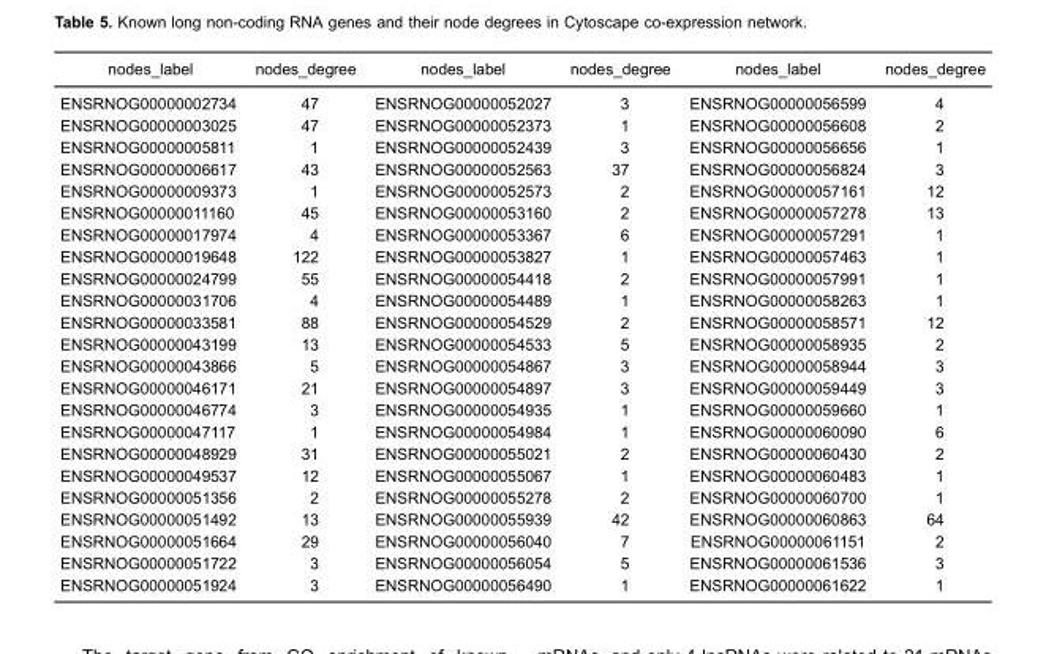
<table><thead><tr><td>nodes_label</td><td>nodes_degree</td><td>nodes_label</td><td>nodes_degree</td><td>nodes_label</td><td>nodes_degree</td></tr></thead><tbody><tr><td>ENSRNOG00000002734</td><td>47</td><td>ENSRNOG00000052027</td><td>3</td><td>ENSRNOG00000056599</td><td>4</td></tr><tr><td>ENSRNOG00000003025</td><td>47</td><td>ENSRNOG00000052373</td><td>1</td><td>ENSRNOG00000056608</td><td>2</td></tr><tr><td>ENSRNOG00000005811</td><td>1</td><td>ENSRNOG00000052439</td><td>3</td><td>ENSRNOG00000056656</td><td>1</td></tr><tr><td>ENSRNOG00000006617</td><td>43</td><td>ENSRNOG00000052563</td><td>37</td><td>ENSRNOG00000056824</td><td>3</td></tr><tr><td>ENSRNOG00000009373</td><td>1</td><td>ENSRNOG00000052573</td><td>2</td><td>ENSRNOG00000057161</td><td>12</td></tr><tr><td>ENSRNOG00000011160</td><td>45</td><td>ENSRNOG00000053160</td><td>2</td><td>ENSRNOG00000057278</td><td>13</td></tr><tr><td>ENSRNOG00000017974</td><td>4</td><td>ENSRNOG00000053367</td><td>6</td><td>ENSRNOG00000057291</td><td>1</td></tr><tr><td>ENSRNOG00000019648</td><td>122</td><td>ENSRNOG00000053827</td><td>1</td><td>ENSRNOG00000057463</td><td>1</td></tr><tr><td>ENSRNOG00000024799</td><td>55</td><td>ENSRNOG00000054418</td><td>2</td><td>ENSRNOG00000057991</td><td>1</td></tr><tr><td>ENSRNOG00000031706</td><td>4</td><td>ENSRNOG00000054489</td><td>1</td><td>ENSRNOG00000058263</td><td>1</td></tr><tr><td>ENSRNOG00000033581</td><td>88</td><td>ENSRNOG00000054529</td><td>2</td><td>ENSRNOG00000058571</td><td>12</td></tr><tr><td>ENSRNOG00000043199</td><td>13</td><td>ENSRNOG00000054533</td><td>5</td><td>ENSRNOG00000058935</td><td>2</td></tr><tr><td>ENSRNOG00000043866</td><td>5</td><td>ENSRNOG00000054867</td><td>3</td><td>ENSRNOG00000058944</td><td>3</td></tr><tr><td>ENSRNOG00000046171</td><td>21</td><td>ENSRNOG00000054897</td><td>3</td><td>ENSRNOG00000059449</td><td>3</td></tr><tr><td>ENSRNOG00000046774</td><td>3</td><td>ENSRNOG00000054935</td><td>1</td><td>ENSRNOG00000059660</td><td>1</td></tr><tr><td>ENSRNOG00000047117</td><td>1</td><td>ENSRNOG00000054984</td><td>1</td><td>ENSRNOG00000060090</td><td>6</td></tr><tr><td>ENSRNOG00000048929</td><td>31</td><td>ENSRNOG00000055021</td><td>2</td><td>ENSRNOG00000060430</td><td>2</td></tr><tr><td>ENSRNOG00000049537</td><td>12</td><td>ENSRNOG00000055067</td><td>1</td><td>ENSRNOG00000060483</td><td>1</td></tr><tr><td>ENSRNOG00000051356</td><td>2</td><td>ENSRNOG00000055278</td><td>2</td><td>ENSRNOG00000060700</td><td>1</td></tr><tr><td>ENSRNOG00000051492</td><td>13</td><td>ENSRNOG00000055939</td><td>42</td><td>ENSRNOG00000060863</td><td>64</td></tr><tr><td>ENSRNOG00000051664</td><td>29</td><td>ENSRNOG00000056040</td><td>7</td><td>ENSRNOG00000061151</td><td>2</td></tr><tr><td>ENSRNOG00000051722</td><td>3</td><td>ENSRNOG00000056054</td><td>5</td><td>ENSRNOG00000061536</td><td>3</td></tr><tr><td>ENSRNOG00000051924</td><td>3</td><td>ENSRNOG00000056490</td><td>1</td><td>ENSRNOG00000061622</td><td>1</td></tr></tbody></table>